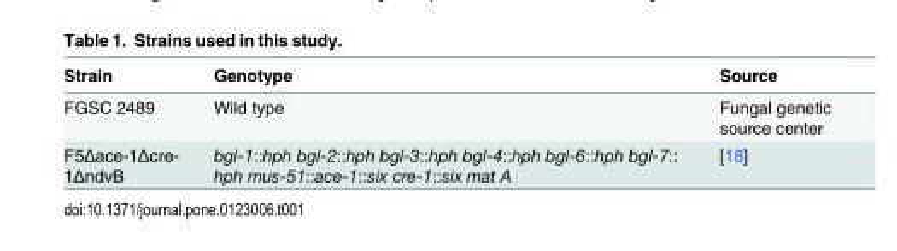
<table><thead><tr><td>Strain</td><td>Genotype</td><td>Source</td></tr></thead><tbody><tr><td>FGSC 2489</td><td>Wild type</td><td>Fungal genetic source center</td></tr><tr><td>F5Δace-1Δcre- 1ΔndvB</td><td>bgl-1::hph bgl-2::hph bgl-3::hph bgl-4::hph bgl-6::hph bgl-7:: hph mus-51::ace-1::six cre-1::six mat A</td><td>[18]</td></tr></tbody></table>